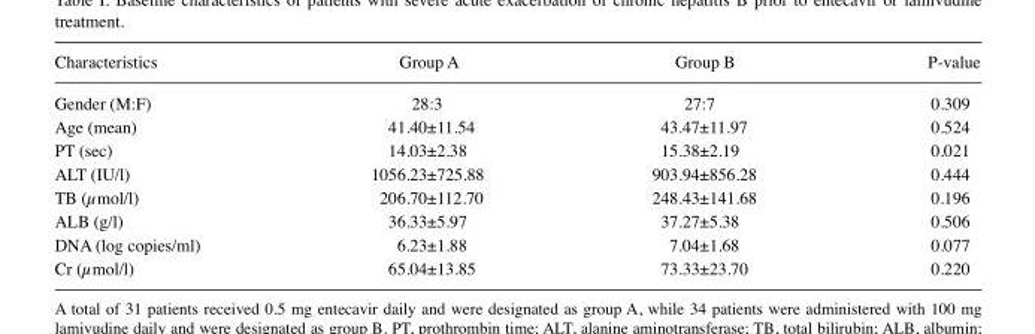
<table><thead><tr><td>Characteristics</td><td>Group A</td><td>Group B</td><td>P-value</td></tr></thead><tbody><tr><td>Gender (M:F)</td><td>28:3</td><td>27:7</td><td>0.309</td></tr><tr><td>Age (mean)</td><td>41.40±11.54</td><td>43.47±11.97</td><td>0.524</td></tr><tr><td>PT (sec)</td><td>14.03±2.38</td><td>15.38±2.19</td><td>0.021</td></tr><tr><td>ALT (IU/l)</td><td>1056.23±725.88</td><td>903.94±856.28</td><td>0.444</td></tr><tr><td>TB (µmol/l)</td><td>206.70±112.70</td><td>248.43±141.68</td><td>0.196</td></tr><tr><td>ALB (g/l)</td><td>36.33±5.97</td><td>37.27±5.38</td><td>0.506</td></tr><tr><td>DNA (log copies/ml)</td><td>6.23±1.88</td><td>7.04±1.68</td><td>0.077</td></tr><tr><td>Cr (µmol/l)</td><td>65.04±13.85</td><td>73.33±23.70</td><td>0.220</td></tr></tbody></table>